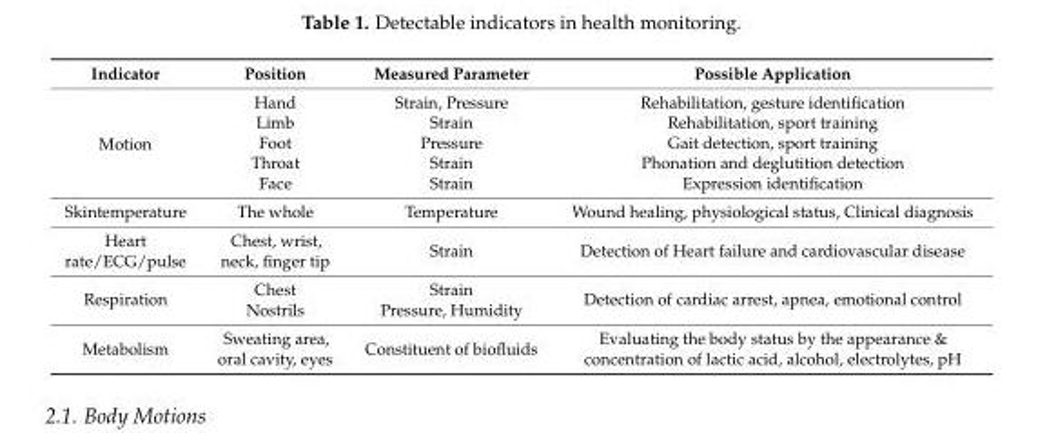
<table><thead><tr><td>Indicator</td><td>Position</td><td>Measured Parameter</td><td>Possible Application</td></tr></thead><tbody><tr><td rowspan="5">Motion</td><td>Hand</td><td>Strain, Pressure</td><td>Rehabilitation, gesture identification</td></tr><tr><td>Limb</td><td>Strain</td><td>Rehabilitation, sport training</td></tr><tr><td>Foot</td><td>Pressure</td><td>Gait detection, sport training</td></tr><tr><td>Throat</td><td>Strain</td><td>Phonation and deglutition detection</td></tr><tr><td>Face</td><td>Strain</td><td>Expression identification</td></tr><tr><td>Skintemperature</td><td>The whole</td><td>Temperature</td><td>Wound healing, physiological status, Clinical diagnosis</td></tr><tr><td>Heart rate/ECG/pulse</td><td>Chest, wrist, neck, finger tip</td><td>Strain</td><td>Detection of Heart failure and cardiovascular disease</td></tr><tr><td rowspan="2">Respiration</td><td>Chest</td><td>Strain</td><td rowspan="2">Detection of cardiac arrest, apnea, emotional control</td></tr><tr><td>Nostrils</td><td>Pressure, Humidity</td></tr><tr><td>Metabolism</td><td>Sweating area, oral cavity, eyes</td><td>Constituent of biofluids</td><td>Evaluating the body status by the appearance &amp; concentration of lactic acid, alcohol, electrolytes, pH</td></tr></tbody></table>